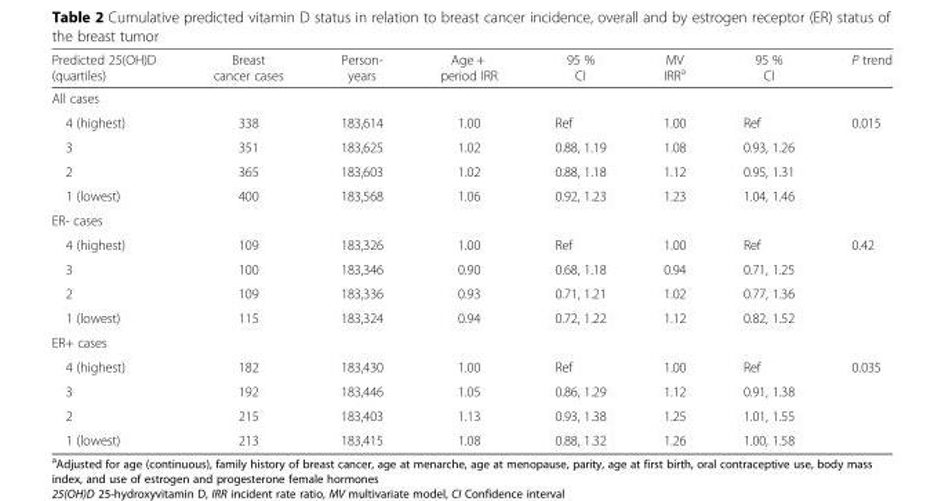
<table><thead><tr><td>Predicted 25(OH)D (quartiles)</td><td>Breast cancer cases</td><td>Person- years</td><td>Age + period IRR</td><td>95 % CI</td><td>MV IRR<sup>a</sup></td><td>95 % CI</td><td>P trend</td></tr></thead><tbody><tr><td colspan="8">All cases</td></tr><tr><td>4 (highest)</td><td>338</td><td>183,614</td><td>1.00</td><td>Ref</td><td>1.00</td><td>Ref</td><td>0.015</td></tr><tr><td>3</td><td>351</td><td>183,625</td><td>1.02</td><td>0.88, 1.19</td><td>1.08</td><td>0.93, 1.26</td><td></td></tr><tr><td>2</td><td>365</td><td>183,603</td><td>1.02</td><td>0.88, 1.18</td><td>1.12</td><td>0.95, 1.31</td><td></td></tr><tr><td>1 (lowest)</td><td>400</td><td>183,568</td><td>1.06</td><td>0.92, 1.23</td><td>1.23</td><td>1.04, 1.46</td><td></td></tr><tr><td colspan="8">ER- cases</td></tr><tr><td>4 (highest)</td><td>109</td><td>183,326</td><td>1.00</td><td>Ref</td><td>1.00</td><td>Ref</td><td>0.42</td></tr><tr><td>3</td><td>100</td><td>183,346</td><td>0.90</td><td>0.68, 1.18</td><td>0.94</td><td>0.71, 1.25</td><td></td></tr><tr><td>2</td><td>109</td><td>183,336</td><td>0.93</td><td>0.71, 1.21</td><td>1.02</td><td>0.77, 1.36</td><td></td></tr><tr><td>1 (lowest)</td><td>115</td><td>183,324</td><td>0.94</td><td>0.72, 1.22</td><td>1.12</td><td>0.82, 1.52</td><td></td></tr><tr><td colspan="8">ER+ cases</td></tr><tr><td>4 (highest)</td><td>182</td><td>183,430</td><td>1.00</td><td>Ref</td><td>1.00</td><td>Ref</td><td>0.035</td></tr><tr><td>3</td><td>192</td><td>183,446</td><td>1.05</td><td>0.86, 1.29</td><td>1.12</td><td>0.91, 1.38</td><td></td></tr><tr><td>2</td><td>215</td><td>183,403</td><td>1.13</td><td>0.93, 1.38</td><td>1.25</td><td>1.01, 1.55</td><td></td></tr><tr><td>1 (lowest)</td><td>213</td><td>183,415</td><td>1.08</td><td>0.88, 1.32</td><td>1.26</td><td>1.00, 1.58</td><td></td></tr></tbody></table>